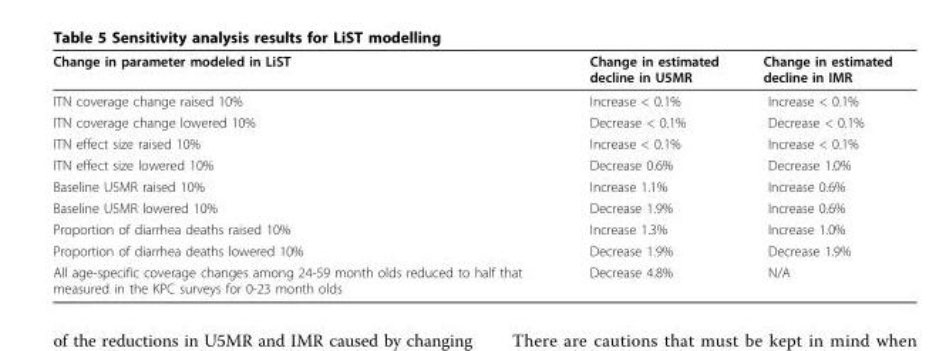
<table><thead><tr><td>Change in parameter modeled in LiST</td><td>Change in estimated decline in U5MR</td><td>Change in estimated decline in IMR</td></tr></thead><tbody><tr><td>ITN coverage change raised 10%</td><td>Increase &lt; 0.1%</td><td>Increase &lt; 0.1%</td></tr><tr><td>ITN coverage change lowered 10%</td><td>Decrease &lt; 0.1%</td><td>Decrease &lt; 0.1%</td></tr><tr><td>ITN effect size raised 10%</td><td>Increase &lt; 0.1%</td><td>Increase &lt; 0.1%</td></tr><tr><td>ITN effect size lowered 10%</td><td>Decrease 0.6%</td><td>Decrease 1.0%</td></tr><tr><td>Baseline U5MR raised 10%</td><td>Increase 1.1%</td><td>Increase 0.6%</td></tr><tr><td>Baseline U5MR lowered 10%</td><td>Decrease 1.9%</td><td>Increase 0.6%</td></tr><tr><td>Proportion of diarrhea deaths raised 10%</td><td>Increase 1.3%</td><td>Increase 1.0%</td></tr><tr><td>Proportion of diarrhea deaths lowered 10%</td><td>Decrease 1.9%</td><td>Decrease 1.9%</td></tr><tr><td>All age-specific coverage changes among 24-59 month olds reduced to half that measured in the KPC surveys for 0-23 month olds</td><td>Decrease 4.8%</td><td>N/A</td></tr></tbody></table>